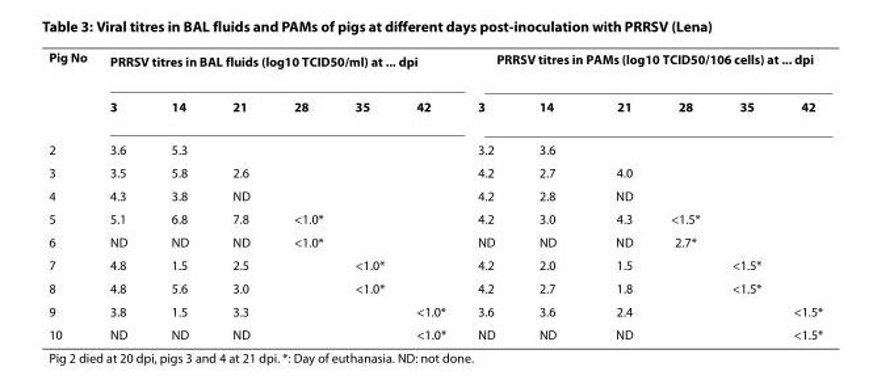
<table><tbody><tr><td rowspan="2">Pig No</td><td colspan="6">PRRSV titres in BAL fluids (log10 TCID<sub>50</sub>/ml) at ... dpi</td><td colspan="6">PRRSV titres in PAMs (log10 TCID<sub>50</sub>/10<sup>6</sup> cells) at ... dpi</td></tr><tr><td>3</td><td>14</td><td>21</td><td>28</td><td>35</td><td>42</td><td>3</td><td>14</td><td>21</td><td>28</td><td>35</td><td>42</td></tr><tr><td>2</td><td>3.6</td><td>5.3</td><td></td><td></td><td></td><td></td><td>3.2</td><td>3.6</td><td></td><td></td><td></td><td></td></tr><tr><td>3</td><td>3.5</td><td>5.8</td><td>2.6</td><td></td><td></td><td></td><td>4.2</td><td>2.7</td><td>4.0</td><td></td><td></td><td></td></tr><tr><td>4</td><td>4.3</td><td>3.8</td><td>ND</td><td></td><td></td><td></td><td>4.2</td><td>2.8</td><td>ND</td><td></td><td></td><td></td></tr><tr><td>5</td><td>5.1</td><td>6.8</td><td>7.8</td><td>&lt;1.0*</td><td></td><td></td><td>4.2</td><td>3.0</td><td>4.3</td><td>&lt;1.5*</td><td></td><td></td></tr><tr><td>6</td><td>ND</td><td>ND</td><td>ND</td><td>&lt;1.0*</td><td></td><td></td><td>ND</td><td>ND</td><td>ND</td><td>2.7*</td><td></td><td></td></tr><tr><td>7</td><td>4.8</td><td>1.5</td><td>2.5</td><td></td><td>&lt;1.0*</td><td></td><td>4.2</td><td>2.0</td><td>1.5</td><td></td><td>&lt;1.5*</td><td></td></tr><tr><td>8</td><td>4.8</td><td>5.6</td><td>3.0</td><td></td><td>&lt;1.0*</td><td></td><td>4.2</td><td>2.7</td><td>1.8</td><td></td><td>&lt;1.5*</td><td></td></tr><tr><td>9</td><td>3.8</td><td>1.5</td><td>3.3</td><td></td><td></td><td>&lt;1.0*</td><td>3.6</td><td>3.6</td><td>2.4</td><td></td><td></td><td>&lt;1.5*</td></tr><tr><td>10</td><td>ND</td><td>ND</td><td>ND</td><td></td><td></td><td>&lt;1.0*</td><td>ND</td><td>ND</td><td>ND</td><td></td><td></td><td>&lt;1.5*</td></tr></tbody></table>